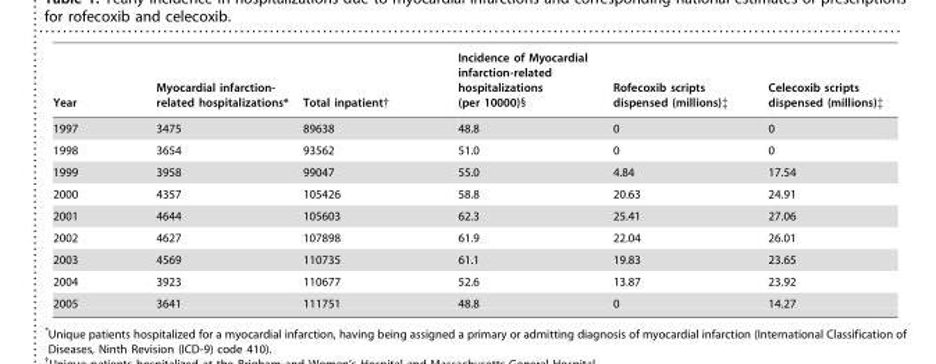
<table><thead><tr><td>Year</td><td>Myocardial infarction- related hospitalizations*</td><td>Total inpatient†</td><td>Incidence of Myocardial infarction-related hospitalizations (per 10000)§</td><td>Rofecoxib scripts dispensed (millions)‡</td><td>Celecoxib scripts dispensed (millions)‡</td></tr></thead><tbody><tr><td>1997</td><td>3475</td><td>89638</td><td>48.8</td><td>0</td><td>0</td></tr><tr><td>1998</td><td>3654</td><td>93562</td><td>51.0</td><td>0</td><td>0</td></tr><tr><td>1999</td><td>3958</td><td>99047</td><td>55.0</td><td>4.84</td><td>17.54</td></tr><tr><td>2000</td><td>4357</td><td>105426</td><td>58.8</td><td>20.63</td><td>24.91</td></tr><tr><td>2001</td><td>4644</td><td>105603</td><td>62.3</td><td>25.41</td><td>27.06</td></tr><tr><td>2002</td><td>4627</td><td>107898</td><td>61.9</td><td>22.04</td><td>26.01</td></tr><tr><td>2003</td><td>4569</td><td>110735</td><td>61.1</td><td>19.83</td><td>23.65</td></tr><tr><td>2004</td><td>3923</td><td>110677</td><td>52.6</td><td>13.87</td><td>23.92</td></tr><tr><td>2005</td><td>3641</td><td>111751</td><td>48.8</td><td>0</td><td>14.27</td></tr></tbody></table>